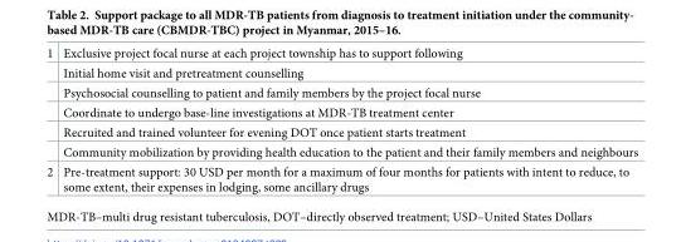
<table><tbody><tr><td rowspan="6">1</td><td>Exclusive project focal nurse at each project township has to support following</td></tr><tr><td>Initial home visit and pretreatment counselling</td></tr><tr><td>Psychosocial counselling to patient and family members by the project focal nurse</td></tr><tr><td>Coordinate to undergo base-line investigations at MDR-TB treatment center</td></tr><tr><td>Recruited and trained volunteer for evening DOT once patient starts treatment</td></tr><tr><td>Community mobilization by providing health education to the patient and their family members and neighbours</td></tr><tr><td>2</td><td>Pre-treatment support: 30 USD per month for a maximum of four months for patients with intent to reduce, to some extent, their expenses in lodging, some ancillary drugs</td></tr></tbody></table>